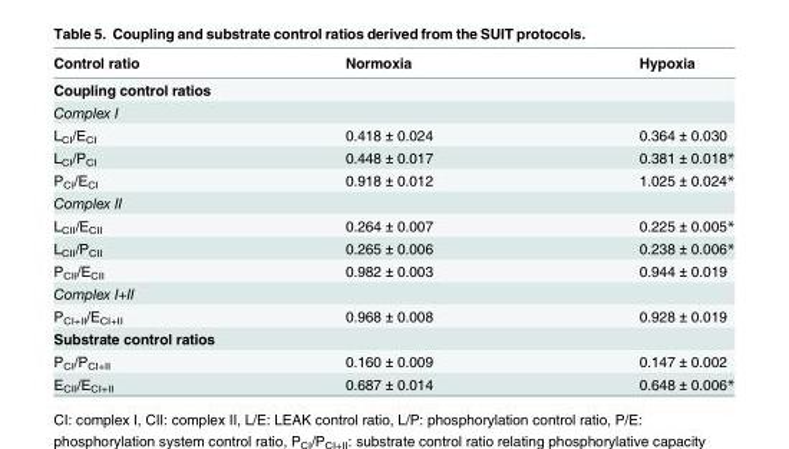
<table><thead><tr><td>Control ratio</td><td>Normoxia</td><td>Hypoxia</td></tr></thead><tbody><tr><td colspan="3">Coupling control ratios</td></tr><tr><td colspan="3">Complex I</td></tr><tr><td>L<sub>CI</sub>/E<sub>CI</sub></td><td>0.418 ± 0.024</td><td>0.364 ± 0.030</td></tr><tr><td>L<sub>CI</sub>/P<sub>CI</sub></td><td>0.448 ± 0.017</td><td>0.381 ± 0.018*</td></tr><tr><td>P<sub>CI</sub>/E<sub>CI</sub></td><td>0.918 ± 0.012</td><td>1.025 ± 0.024*</td></tr><tr><td colspan="3">Complex II</td></tr><tr><td>L<sub>CII</sub>/E<sub>CII</sub></td><td>0.264 ± 0.007</td><td>0.225 ± 0.005*</td></tr><tr><td>L<sub>CII</sub>/P<sub>CII</sub></td><td>0.265 ± 0.006</td><td>0.238 ± 0.006*</td></tr><tr><td>P<sub>CII</sub>/E<sub>CII</sub></td><td>0.982 ± 0.003</td><td>0.944 ± 0.019</td></tr><tr><td colspan="3">Complex I+II</td></tr><tr><td>P<sub>CI+II</sub>/E<sub>CI+II</sub></td><td>0.968 ± 0.008</td><td>0.928 ± 0.019</td></tr><tr><td colspan="3">Substrate control ratios</td></tr><tr><td>P<sub>CI</sub>/P<sub>CI+II</sub></td><td>0.160 ± 0.009</td><td>0.147 ± 0.002</td></tr><tr><td>E<sub>CII</sub>/E<sub>CI+II</sub></td><td>0.687 ± 0.014</td><td>0.648 ± 0.006*</td></tr></tbody></table>